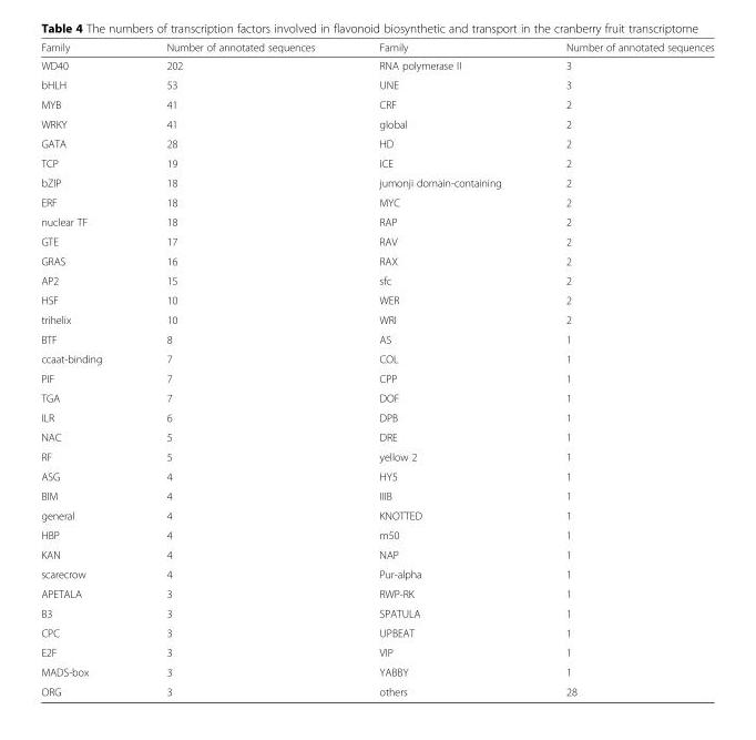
<table><thead><tr><td>Family</td><td>Number of annotated sequences</td><td>Family</td><td>Number of annotated sequences</td></tr></thead><tbody><tr><td>WD40</td><td>202</td><td>RNA polymerase II</td><td>3</td></tr><tr><td>bHLH</td><td>53</td><td>UNE</td><td>3</td></tr><tr><td>MYB</td><td>41</td><td>CRF</td><td>2</td></tr><tr><td>WRKY</td><td>41</td><td>global</td><td>2</td></tr><tr><td>GATA</td><td>28</td><td>HD</td><td>2</td></tr><tr><td>TCP</td><td>19</td><td>ICE</td><td>2</td></tr><tr><td>bZIP</td><td>18</td><td>jumonji domain-containing</td><td>2</td></tr><tr><td>ERF</td><td>18</td><td>MYC</td><td>2</td></tr><tr><td>nuclear TF</td><td>18</td><td>RAP</td><td>2</td></tr><tr><td>GTE</td><td>17</td><td>RAV</td><td>2</td></tr><tr><td>GRAS</td><td>16</td><td>RAX</td><td>2</td></tr><tr><td>AP2</td><td>15</td><td>sfc</td><td>2</td></tr><tr><td>HSF</td><td>10</td><td>WER</td><td>2</td></tr><tr><td>trihelix</td><td>10</td><td>WRI</td><td>2</td></tr><tr><td>BTF</td><td>8</td><td>AS</td><td>1</td></tr><tr><td>ccaat-binding</td><td>7</td><td>COL</td><td>1</td></tr><tr><td>PIF</td><td>7</td><td>CPP</td><td>1</td></tr><tr><td>TGA</td><td>7</td><td>DOF</td><td>1</td></tr><tr><td>ILR</td><td>6</td><td>DPB</td><td>1</td></tr><tr><td>NAC</td><td>5</td><td>DRE</td><td>1</td></tr><tr><td>RF</td><td>5</td><td>yellow 2</td><td>1</td></tr><tr><td>ASG</td><td>4</td><td>HY5</td><td>1</td></tr><tr><td>BIM</td><td>4</td><td>IIIB</td><td>1</td></tr><tr><td>general</td><td>4</td><td>KNOTTED</td><td>1</td></tr><tr><td>HBP</td><td>4</td><td>m50</td><td>1</td></tr><tr><td>KAN</td><td>4</td><td>NAP</td><td>1</td></tr><tr><td>scarecrow</td><td>4</td><td>Pur-alpha</td><td>1</td></tr><tr><td>APETALA</td><td>3</td><td>RWP-RK</td><td>1</td></tr><tr><td>B3</td><td>3</td><td>SPATULA</td><td>1</td></tr><tr><td>CPC</td><td>3</td><td>UPBEAT</td><td>1</td></tr><tr><td>E2F</td><td>3</td><td>VIP</td><td>1</td></tr><tr><td>MADS-box</td><td>3</td><td>YABBY</td><td>1</td></tr><tr><td>ORG</td><td>3</td><td>others</td><td>28</td></tr></tbody></table>